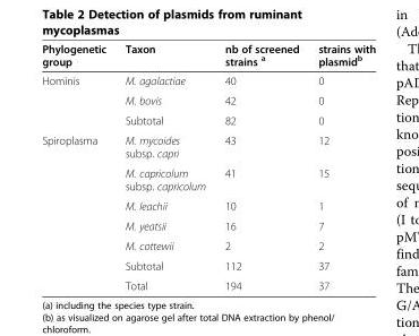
<table><thead><tr><td>Phylogenetic group</td><td>Taxon</td><td>nb of screened strains <sup>a</sup></td><td>strains with plasmid<sup>b</sup></td></tr></thead><tbody><tr><td rowspan="3">Hominis</td><td>M. agalactiae</td><td>40</td><td>0</td></tr><tr><td>M. bovis</td><td>42</td><td>0</td></tr><tr><td>Subtotal</td><td>82</td><td>0</td></tr><tr><td rowspan="7">Spiroplasma</td><td>M. mycoides subsp. capri</td><td>43</td><td>12</td></tr><tr><td>M. capricolum subsp. capricolum</td><td>41</td><td>15</td></tr><tr><td>M. leachii</td><td>10</td><td>1</td></tr><tr><td>M. yeatsii</td><td>16</td><td>7</td></tr><tr><td>M. cottewii</td><td>2</td><td>2</td></tr><tr><td>Subtotal</td><td>112</td><td>37</td></tr><tr><td>Total</td><td>194</td><td>37</td></tr></tbody></table>